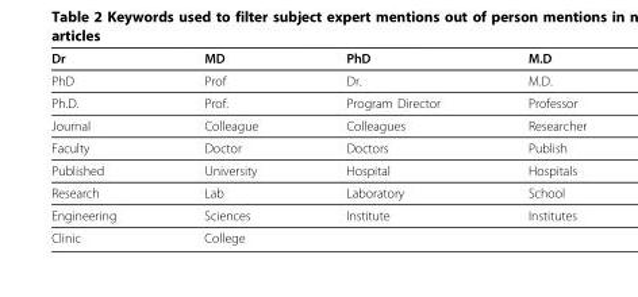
<table><thead><tr><td>Dr</td><td>MD</td><td>PhD</td><td>M.D</td></tr></thead><tbody><tr><td>PhD</td><td>Prof</td><td>Dr.</td><td>M.D.</td></tr><tr><td>Ph.D.</td><td>Prof.</td><td>Program Director</td><td>Professor</td></tr><tr><td>Journal</td><td>Colleague</td><td>Colleagues</td><td>Researcher</td></tr><tr><td>Faculty</td><td>Doctor</td><td>Doctors</td><td>Publish</td></tr><tr><td>Published</td><td>University</td><td>Hospital</td><td>Hospitals</td></tr><tr><td>Research</td><td>Lab</td><td>Laboratory</td><td>School</td></tr><tr><td>Engineering</td><td>Sciences</td><td>Institute</td><td>Institutes</td></tr><tr><td>Clinic</td><td>College</td><td></td><td></td></tr></tbody></table>